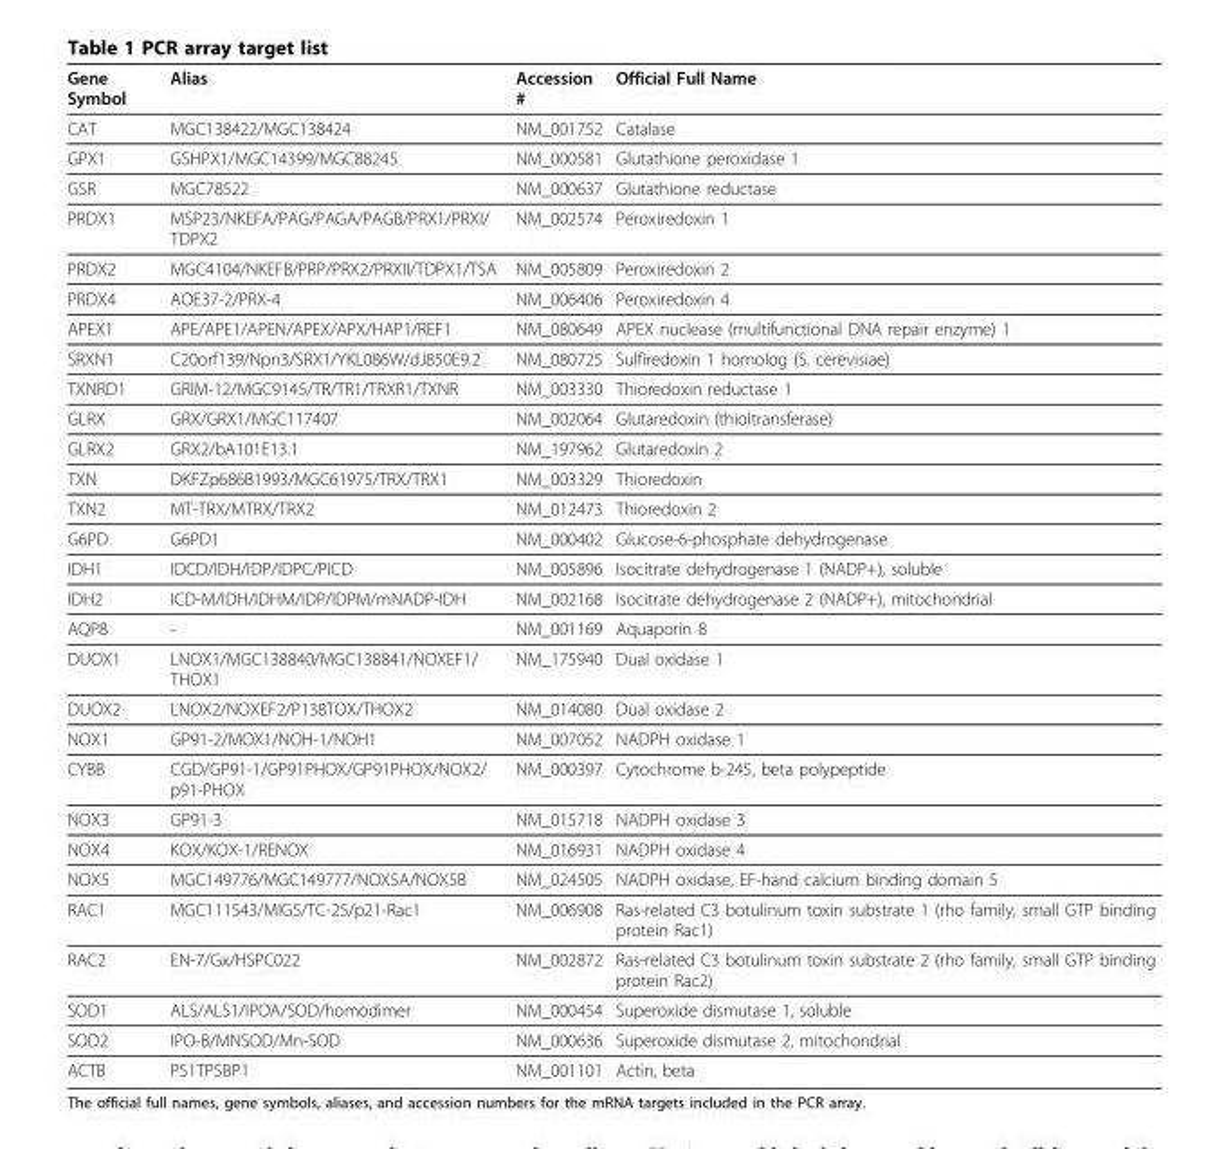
<table><thead><tr><td>Gene Symbol</td><td>Alias</td><td>Accession #</td><td>Official Full Name</td></tr></thead><tbody><tr><td>CAT</td><td>MGC138422/MGC138424</td><td>NM_001752</td><td>Catalase</td></tr><tr><td>GPX1</td><td>GSHPX1/MGC14399/MGC88245</td><td>NM_000581</td><td>Glutathione peroxidase 1</td></tr><tr><td>GSR</td><td>MGC78522</td><td>NM_000637</td><td>Glutathione reductase</td></tr><tr><td>PRDX1</td><td>MSP23/NKEFA/PAG/PAGA/PAGB/PRX1/PRXI/ TDPX2</td><td>NM_002574</td><td>Peroxiredoxin 1</td></tr><tr><td>PRDX2</td><td>MGC4104/NKEFB/PRP/PRX2/PRXII/TDPX1/TSA</td><td>NM_005809</td><td>Peroxiredoxin 2</td></tr><tr><td>PRDX4</td><td>AOE37-2/PRX-4</td><td>NM_006406</td><td>Peroxiredoxin 4</td></tr><tr><td>APEX1</td><td>APE/APE1/APEN/APEX/APX/HAP1/REF1</td><td>NM_080649</td><td>APEX nuclease (multifunctional DNA repair enzyme) 1</td></tr><tr><td>SRXN1</td><td>C20orf139/Npn3/SRX1/YKL086W/dJ850E9.2</td><td>NM_080725</td><td>Sulfiredoxin 1 homolog (S. cerevisiae)</td></tr><tr><td>TXNRD1</td><td>GRIM-12/MGC9145/TR/TR1/TRXR1/TXNR</td><td>NM_003330</td><td>Thioredoxin reductase 1</td></tr><tr><td>GLRX</td><td>GRX/GRX1/MGC117407</td><td>NM_002064</td><td>Glutaredoxin (thioltransferase)</td></tr><tr><td>GLRX2</td><td>GRX2/bA101E13.1</td><td>NM_197962</td><td>Glutaredoxin 2</td></tr><tr><td>TXN</td><td>DKFZp686B1993/MGC61975/TRX/TRX1</td><td>NM_003329</td><td>Thioredoxin</td></tr><tr><td>TXN2</td><td>MT-TRX/MTRX/TRX2</td><td>NM_012473</td><td>Thioredoxin 2</td></tr><tr><td>G6PD</td><td>G6PD1</td><td>NM_000402</td><td>Glucose-6-phosphate dehydrogenase</td></tr><tr><td>IDH1</td><td>IDCD/IDH/IDP/IDPC/PICD</td><td>NM_005896</td><td>Isocitrate dehydrogenase 1 (NADP+), soluble</td></tr><tr><td>IDH2</td><td>ICD-M/IDH/IDHM/IDP/IDPM/mNADP-IDH</td><td>NM_002168</td><td>Isocitrate dehydrogenase 2 (NADP+), mitochondrial</td></tr><tr><td>AQP8</td><td>-</td><td>NM_001169</td><td>Aquaporin 8</td></tr><tr><td>DUOX1</td><td>LNOX1/MGC138840/MGC138841/NOXEF1/ THOX1</td><td>NM_175940</td><td>Dual oxidase 1</td></tr><tr><td>DUOX2</td><td>LNOX2/NOXEF2/P138TOX/THOX2</td><td>NM_014080</td><td>Dual oxidase 2</td></tr><tr><td>NOX1</td><td>GP91-2/MOX1/NOH-1/NOH1</td><td>NM_007052</td><td>NADPH oxidase 1</td></tr><tr><td>CYBB</td><td>CGD/GP91-1/GP91PHOX/GP91PHOX/NOX2/ p91-PHOX</td><td>NM_000397</td><td>Cytochrome b-245, beta polypeptide</td></tr><tr><td>NOX3</td><td>GP91-3</td><td>NM_015718</td><td>NADPH oxidase 3</td></tr><tr><td>NOX4</td><td>KOX/KOX-1/RENOX</td><td>NM_016931</td><td>NADPH oxidase 4</td></tr><tr><td>NOX5</td><td>MGC149776/MGC149777/NOX5A/NOX5B</td><td>NM_024505</td><td>NADPH oxidase, EF-hand calcium binding domain 5</td></tr><tr><td>RAC1</td><td>MGC111543/MIG5/TC-25/p21-Rac1</td><td>NM_006908</td><td>Ras-related C3 botulinum toxin substrate 1 (rho family, small GTP binding protein Rac1)</td></tr><tr><td>RAC2</td><td>EN-7/Gx/HSPC022</td><td>NM_002872</td><td>Ras-related C3 botulinum toxin substrate 2 (rho family, small GTP binding protein Rac2)</td></tr><tr><td>SOD1</td><td>ALS/ALS1/IPOA/SOD/homodimer</td><td>NM_000454</td><td>Superoxide dismutase 1, soluble</td></tr><tr><td>SOD2</td><td>IPO-B/MNSOD/Mn-SOD</td><td>NM_000636</td><td>Superoxide dismutase 2, mitochondrial</td></tr><tr><td>ACTB</td><td>PS1TP5BP1</td><td>NM_001101</td><td>Actin, beta</td></tr></tbody></table>